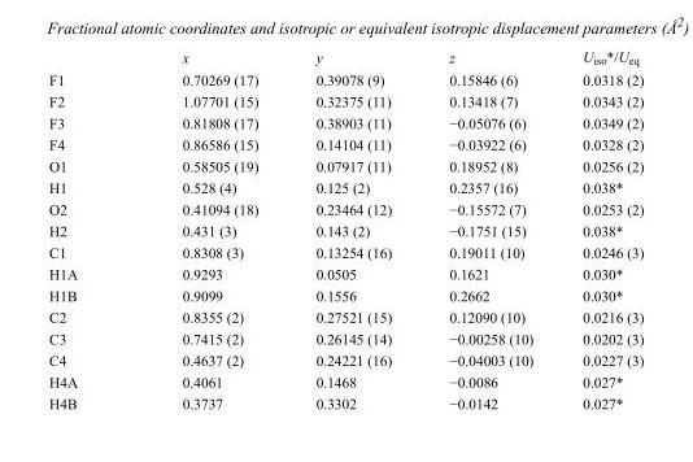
<table><thead><tr><td></td><td>x</td><td>y</td><td>z</td><td>U<sub>iso</sub>*/U<sub>eq</sub></td></tr></thead><tbody><tr><td>F1</td><td>0.70269 (17)</td><td>0.39078 (9)</td><td>0.15846 (6)</td><td>0.0318 (2)</td></tr><tr><td>F2</td><td>1.07701 (15)</td><td>0.32375 (11)</td><td>0.13418 (7)</td><td>0.0343 (2)</td></tr><tr><td>F3</td><td>0.81808 (17)</td><td>0.38903 (11)</td><td>−0.05076 (6)</td><td>0.0349 (2)</td></tr><tr><td>F4</td><td>0.86586 (15)</td><td>0.14104 (11)</td><td>−0.03922 (6)</td><td>0.0328 (2)</td></tr><tr><td>O1</td><td>0.58505 (19)</td><td>0.07917 (11)</td><td>0.18952 (8)</td><td>0.0256 (2)</td></tr><tr><td>H1</td><td>0.528 (4)</td><td>0.125 (2)</td><td>0.2357 (16)</td><td>0.038*</td></tr><tr><td>O2</td><td>0.41094 (18)</td><td>0.23464 (12)</td><td>−0.15572 (7)</td><td>0.0253 (2)</td></tr><tr><td>H2</td><td>0.431 (3)</td><td>0.143 (2)</td><td>−0.1751 (15)</td><td>0.038*</td></tr><tr><td>C1</td><td>0.8308 (3)</td><td>0.13254 (16)</td><td>0.19011 (10)</td><td>0.0246 (3)</td></tr><tr><td>H1A</td><td>0.9293</td><td>0.0505</td><td>0.1621</td><td>0.030*</td></tr><tr><td>H1B</td><td>0.9099</td><td>0.1556</td><td>0.2662</td><td>0.030*</td></tr><tr><td>C2</td><td>0.8355 (2)</td><td>0.27521 (15)</td><td>0.12090 (10)</td><td>0.0216 (3)</td></tr><tr><td>C3</td><td>0.7415 (2)</td><td>0.26145 (14)</td><td>−0.00258 (10)</td><td>0.0202 (3)</td></tr><tr><td>C4</td><td>0.4637 (2)</td><td>0.24221 (16)</td><td>−0.04003 (10)</td><td>0.0227 (3)</td></tr><tr><td>H4A</td><td>0.4061</td><td>0.1468</td><td>−0.0086</td><td>0.027*</td></tr><tr><td>H4B</td><td>0.3737</td><td>0.3302</td><td>−0.0142</td><td>0.027*</td></tr></tbody></table>